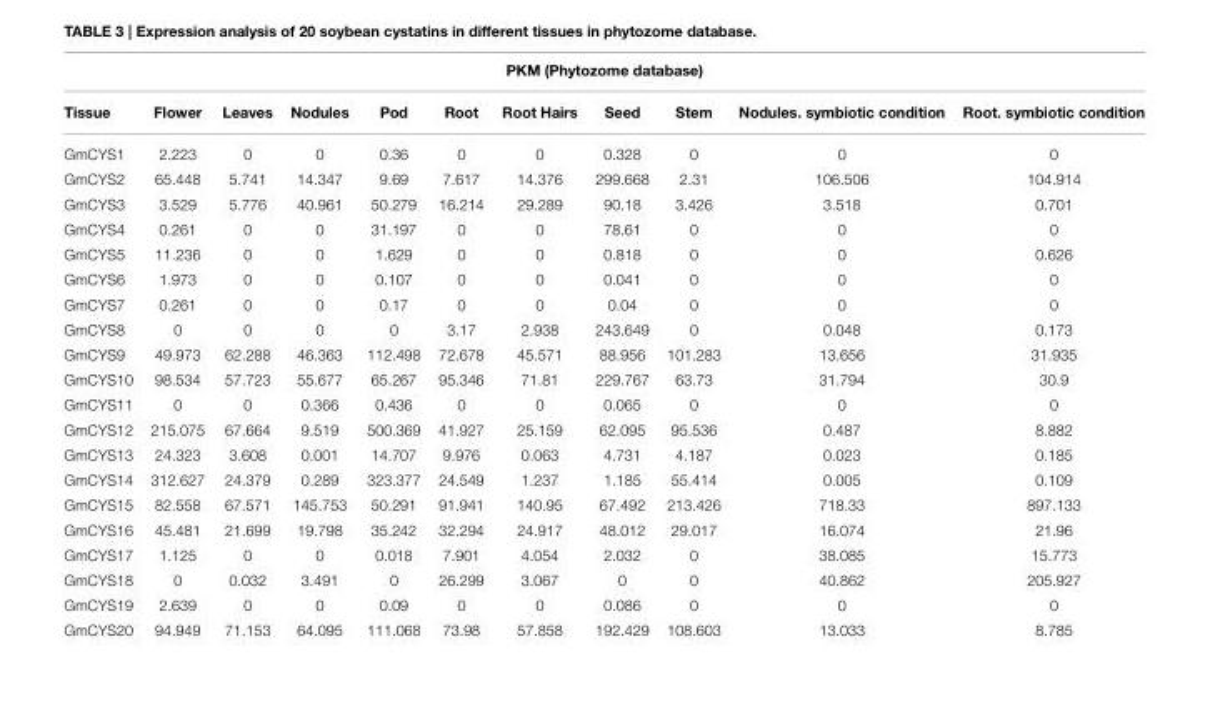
<table><thead><tr><td colspan="11">PKM (Phytozome database)</td></tr><tr><td>Tissue</td><td>Flower</td><td>Leaves</td><td>Nodules</td><td>Pod</td><td>Root</td><td>Root Hairs</td><td>Seed</td><td>Stem</td><td>Nodules. symbiotic condition</td><td>Root. symbiotic condition</td></tr></thead><tbody><tr><td>GmCYS1</td><td>2.223</td><td>0</td><td>0</td><td>0.36</td><td>0</td><td>0</td><td>0.328</td><td>0</td><td>0</td><td>0</td></tr><tr><td>GmCYS2</td><td>65.448</td><td>5.741</td><td>14.347</td><td>9.69</td><td>7.617</td><td>14.376</td><td>299.668</td><td>2.31</td><td>106.506</td><td>104.914</td></tr><tr><td>GmCYS3</td><td>3.529</td><td>5.776</td><td>40.961</td><td>50.279</td><td>16.214</td><td>29.289</td><td>90.18</td><td>3.426</td><td>3.518</td><td>0.701</td></tr><tr><td>GmCYS4</td><td>0.261</td><td>0</td><td>0</td><td>31.197</td><td>0</td><td>0</td><td>78.61</td><td>0</td><td>0</td><td>0</td></tr><tr><td>GmCYS5</td><td>11.236</td><td>0</td><td>0</td><td>1.629</td><td>0</td><td>0</td><td>0.818</td><td>0</td><td>0</td><td>0.626</td></tr><tr><td>GmCYS6</td><td>1.973</td><td>0</td><td>0</td><td>0.107</td><td>0</td><td>0</td><td>0.041</td><td>0</td><td>0</td><td>0</td></tr><tr><td>GmCYS7</td><td>0.261</td><td>0</td><td>0</td><td>0.17</td><td>0</td><td>0</td><td>0.04</td><td>0</td><td>0</td><td>0</td></tr><tr><td>GmCYS8</td><td>0</td><td>0</td><td>0</td><td>0</td><td>3.17</td><td>2.938</td><td>243.649</td><td>0</td><td>0.048</td><td>0.173</td></tr><tr><td>GmCYS9</td><td>49.973</td><td>62.288</td><td>46.363</td><td>112.498</td><td>72.678</td><td>45.571</td><td>88.956</td><td>101.283</td><td>13.656</td><td>31.935</td></tr><tr><td>GmCYS10</td><td>98.534</td><td>57.723</td><td>55.677</td><td>65.267</td><td>95.346</td><td>71.81</td><td>229.767</td><td>63.73</td><td>31.794</td><td>30.9</td></tr><tr><td>GmCYS11</td><td>0</td><td>0</td><td>0.366</td><td>0.436</td><td>0</td><td>0</td><td>0.065</td><td>0</td><td>0</td><td>0</td></tr><tr><td>GmCYS12</td><td>215.075</td><td>67.664</td><td>9.519</td><td>500.369</td><td>41.927</td><td>25.159</td><td>62.095</td><td>95.536</td><td>0.487</td><td>8.882</td></tr><tr><td>GmCYS13</td><td>24.323</td><td>3.608</td><td>0.001</td><td>14.707</td><td>9.976</td><td>0.063</td><td>4.731</td><td>4.187</td><td>0.023</td><td>0.185</td></tr><tr><td>GmCYS14</td><td>312.627</td><td>24.379</td><td>0.289</td><td>323.377</td><td>24.549</td><td>1.237</td><td>1.185</td><td>55.414</td><td>0.005</td><td>0.109</td></tr><tr><td>GmCYS15</td><td>82.558</td><td>67.571</td><td>145.753</td><td>50.291</td><td>91.941</td><td>140.95</td><td>67.492</td><td>213.426</td><td>718.33</td><td>897.133</td></tr><tr><td>GmCYS16</td><td>45.481</td><td>21.699</td><td>19.798</td><td>35.242</td><td>32.294</td><td>24.917</td><td>48.012</td><td>29.017</td><td>16.074</td><td>21.96</td></tr><tr><td>GmCYS17</td><td>1.125</td><td>0</td><td>0</td><td>0.018</td><td>7.901</td><td>4.054</td><td>2.032</td><td>0</td><td>38.085</td><td>15.773</td></tr><tr><td>GmCYS18</td><td>0</td><td>0.032</td><td>3.491</td><td>0</td><td>26.299</td><td>3.067</td><td>0</td><td>0</td><td>40.862</td><td>205.927</td></tr><tr><td>GmCYS19</td><td>2.639</td><td>0</td><td>0</td><td>0.09</td><td>0</td><td>0</td><td>0.086</td><td>0</td><td>0</td><td>0</td></tr><tr><td>GmCYS20</td><td>94.949</td><td>71.153</td><td>64.095</td><td>111.068</td><td>73.98</td><td>57.858</td><td>192.429</td><td>108.603</td><td>13.033</td><td>8.785</td></tr></tbody></table>